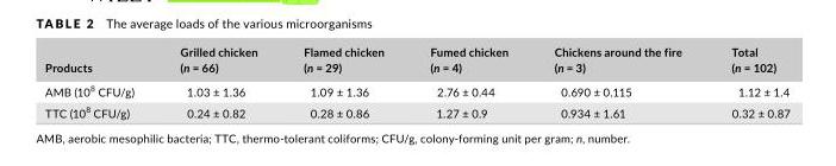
<table><thead><tr><td>Products</td><td>Grilled chicken (n = 66)</td><td>Flamed chicken (n = 29)</td><td>Fumed chicken (n = 4)</td><td>Chickens around the fire (n = 3)</td><td>Total (n = 102)</td></tr></thead><tbody><tr><td>AMB (10<sup>8</sup> CFU/g)</td><td>1.03 ± 1.36</td><td>1.09 ± 1.36</td><td>2.76 ± 0.44</td><td>0.690 ± 0.115</td><td>1.12 ± 1.4</td></tr><tr><td>TTC (10<sup>8</sup> CFU/g)</td><td>0.24 ± 0.82</td><td>0.28 ± 0.86</td><td>1.27 ± 0.9</td><td>0.934 ± 1.61</td><td>0.32 ± 0.87</td></tr></tbody></table>